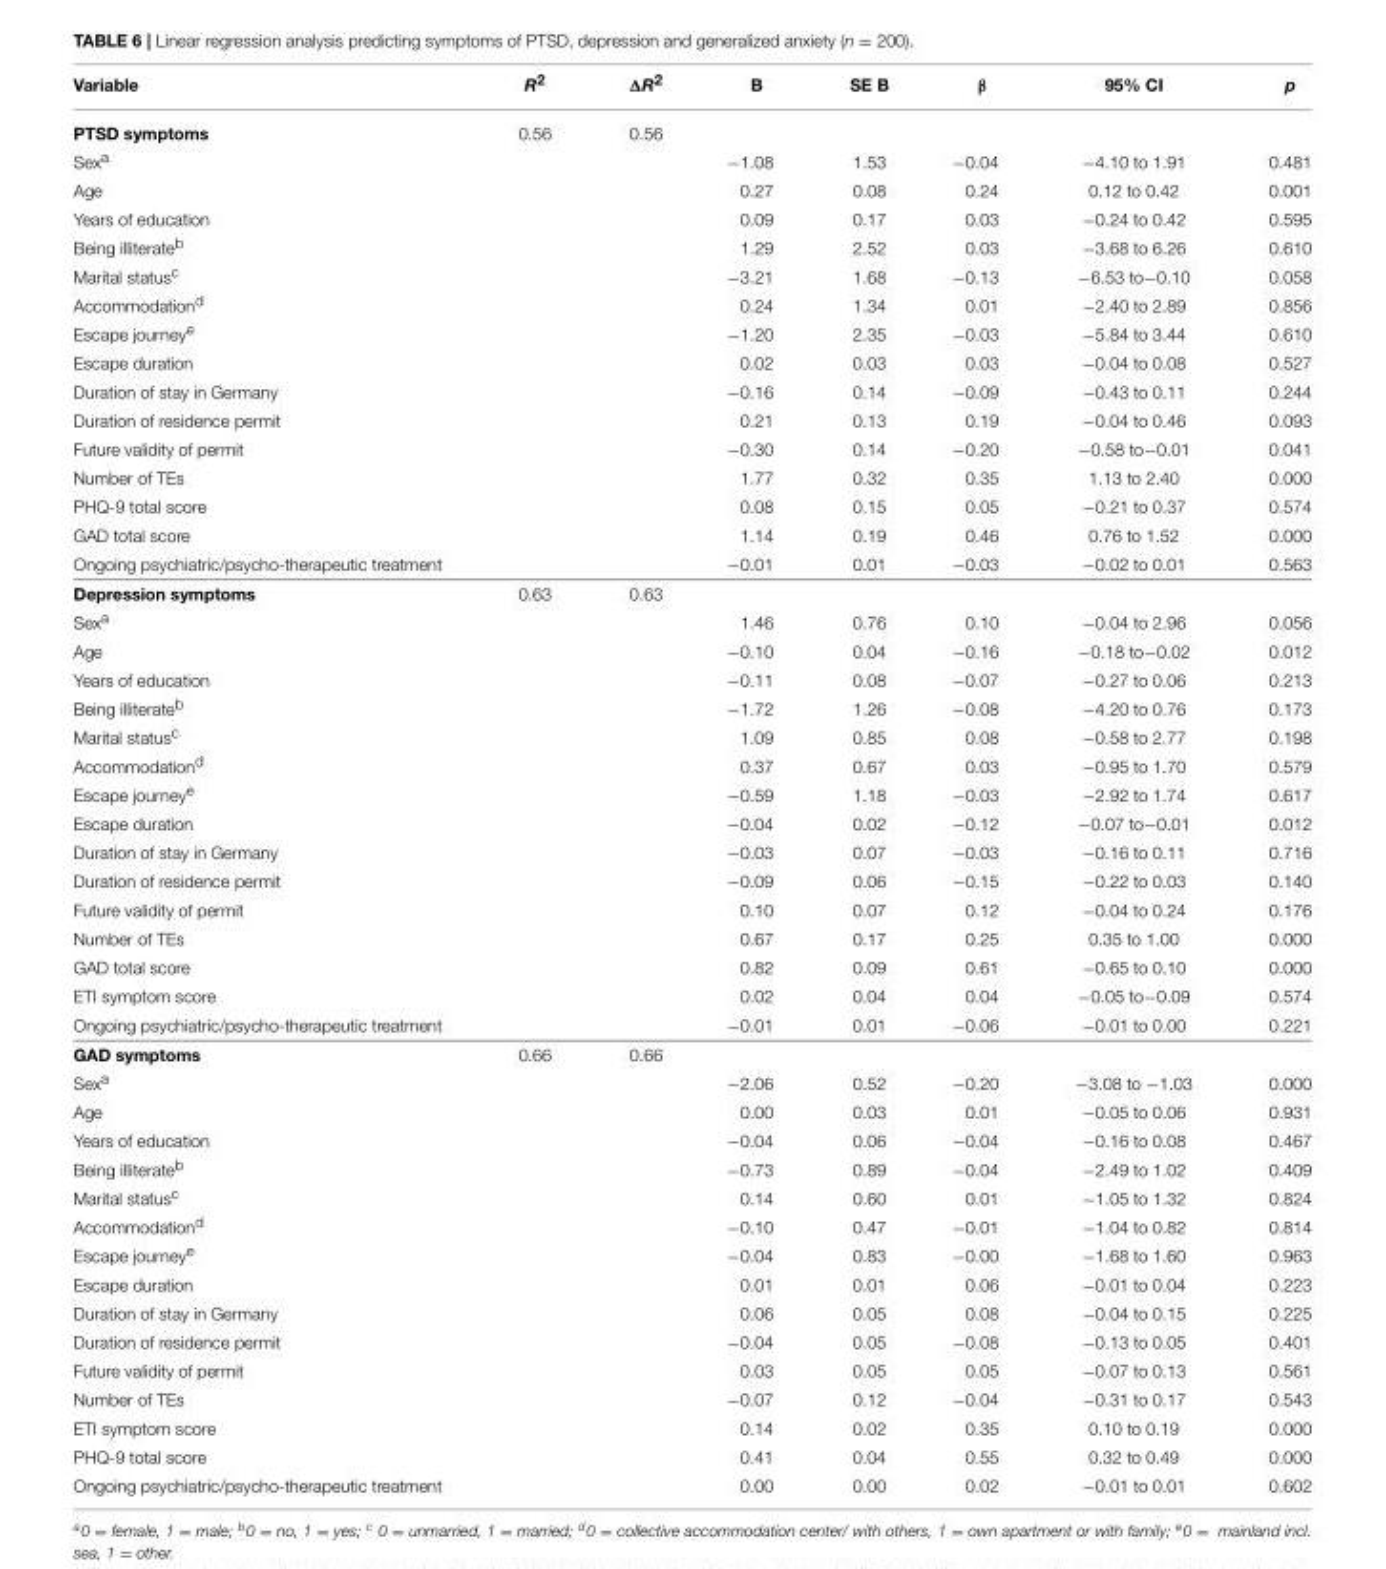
<table><thead><tr><td>Variable</td><td>R<sup>2</sup></td><td>ΔR<sup>2</sup></td><td>B</td><td>SE B</td><td>β</td><td>95% CI</td><td>p</td></tr></thead><tbody><tr><td>PTSD symptoms</td><td>0.56</td><td>0.56</td><td></td><td></td><td></td><td></td><td></td></tr><tr><td>Sex<sup>a</sup></td><td></td><td></td><td>−1.08</td><td>1.53</td><td>−0.04</td><td>−4.10 to 1.91</td><td>0.481</td></tr><tr><td>Age</td><td></td><td></td><td>0.27</td><td>0.08</td><td>0.24</td><td>0.12 to 0.42</td><td>0.001</td></tr><tr><td>Years of education</td><td></td><td></td><td>0.09</td><td>0.17</td><td>0.03</td><td>−0.24 to 0.42</td><td>0.595</td></tr><tr><td>Being illiterate<sup>b</sup></td><td></td><td></td><td>1.29</td><td>2.52</td><td>0.03</td><td>−3.68 to 6.26</td><td>0.610</td></tr><tr><td>Marital status<sup>c</sup></td><td></td><td></td><td>−3.21</td><td>1.68</td><td>−0.13</td><td>−6.53 to−0.10</td><td>0.058</td></tr><tr><td>Accommodation<sup>d</sup></td><td></td><td></td><td>0.24</td><td>1.34</td><td>0.01</td><td>−2.40 to 2.89</td><td>0.856</td></tr><tr><td>Escape journey<sup>e</sup></td><td></td><td></td><td>−1.20</td><td>2.35</td><td>−0.03</td><td>−5.84 to 3.44</td><td>0.610</td></tr><tr><td>Escape duration</td><td></td><td></td><td>0.02</td><td>0.03</td><td>0.03</td><td>−0.04 to 0.08</td><td>0.527</td></tr><tr><td>Duration of stay in Germany</td><td></td><td></td><td>−0.16</td><td>0.14</td><td>−0.09</td><td>−0.43 to 0.11</td><td>0.244</td></tr><tr><td>Duration of residence permit</td><td></td><td></td><td>0.21</td><td>0.13</td><td>0.19</td><td>−0.04 to 0.46</td><td>0.093</td></tr><tr><td>Future validity of permit</td><td></td><td></td><td>−0.30</td><td>0.14</td><td>−0.20</td><td>−0.58 to−0.01</td><td>0.041</td></tr><tr><td>Number of TEs</td><td></td><td></td><td>1.77</td><td>0.32</td><td>0.35</td><td>1.13 to 2.40</td><td>0.000</td></tr><tr><td>PHQ-9 total score</td><td></td><td></td><td>0.08</td><td>0.15</td><td>0.05</td><td>−0.21 to 0.37</td><td>0.574</td></tr><tr><td>GAD total score</td><td></td><td></td><td>1.14</td><td>0.19</td><td>0.46</td><td>0.76 to 1.52</td><td>0.000</td></tr><tr><td>Ongoing psychiatric/psycho-therapeutic treatment</td><td></td><td></td><td>−0.01</td><td>0.01</td><td>−0.03</td><td>−0.02 to 0.01</td><td>0.563</td></tr><tr><td>Depression symptoms</td><td>0.63</td><td>0.63</td><td></td><td></td><td></td><td></td><td></td></tr><tr><td>Sex<sup>a</sup></td><td></td><td></td><td>1.46</td><td>0.76</td><td>0.10</td><td>−0.04 to 2.96</td><td>0.056</td></tr><tr><td>Age</td><td></td><td></td><td>−0.10</td><td>0.04</td><td>−0.16</td><td>−0.18 to−0.02</td><td>0.012</td></tr><tr><td>Years of education</td><td></td><td></td><td>−0.11</td><td>0.08</td><td>−0.07</td><td>−0.27 to 0.06</td><td>0.213</td></tr><tr><td>Being illiterate<sup>b</sup></td><td></td><td></td><td>−1.72</td><td>1.26</td><td>−0.08</td><td>−4.20 to 0.76</td><td>0.173</td></tr><tr><td>Marital status<sup>c</sup></td><td></td><td></td><td>1.09</td><td>0.85</td><td>0.08</td><td>−0.58 to 2.77</td><td>0.198</td></tr><tr><td>Accommodation<sup>d</sup></td><td></td><td></td><td>0.37</td><td>0.67</td><td>0.03</td><td>−0.95 to 1.70</td><td>0.579</td></tr><tr><td>Escape journey<sup>e</sup></td><td></td><td></td><td>−0.59</td><td>1.18</td><td>−0.03</td><td>−2.92 to 1.74</td><td>0.617</td></tr><tr><td>Escape duration</td><td></td><td></td><td>−0.04</td><td>0.02</td><td>−0.12</td><td>−0.07 to−0.01</td><td>0.012</td></tr><tr><td>Duration of stay in Germany</td><td></td><td></td><td>−0.03</td><td>0.07</td><td>−0.03</td><td>−0.16 to 0.11</td><td>0.716</td></tr><tr><td>Duration of residence permit</td><td></td><td></td><td>−0.09</td><td>0.06</td><td>−0.15</td><td>−0.22 to 0.03</td><td>0.140</td></tr><tr><td>Future validity of permit</td><td></td><td></td><td>0.10</td><td>0.07</td><td>0.12</td><td>−0.04 to 0.24</td><td>0.176</td></tr><tr><td>Number of TEs</td><td></td><td></td><td>0.67</td><td>0.17</td><td>0.25</td><td>0.35 to 1.00</td><td>0.000</td></tr><tr><td>GAD total score</td><td></td><td></td><td>0.82</td><td>0.09</td><td>0.61</td><td>−0.65 to 0.10</td><td>0.000</td></tr><tr><td>ETI symptom score</td><td></td><td></td><td>0.02</td><td>0.04</td><td>0.04</td><td>−0.05 to−0.09</td><td>0.574</td></tr><tr><td>Ongoing psychiatric/psycho-therapeutic treatment</td><td></td><td></td><td>−0.01</td><td>0.01</td><td>−0.06</td><td>−0.01 to 0.00</td><td>0.221</td></tr><tr><td>GAD symptoms</td><td>0.66</td><td>0.66</td><td></td><td></td><td></td><td></td><td></td></tr><tr><td>Sex<sup>a</sup></td><td></td><td></td><td>−2.06</td><td>0.52</td><td>−0.20</td><td>−3.08 to −1.03</td><td>0.000</td></tr><tr><td>Age</td><td></td><td></td><td>0.00</td><td>0.03</td><td>0.01</td><td>−0.05 to 0.06</td><td>0.931</td></tr><tr><td>Years of education</td><td></td><td></td><td>−0.04</td><td>0.06</td><td>−0.04</td><td>−0.16 to 0.08</td><td>0.467</td></tr><tr><td>Being illiterate<sup>b</sup></td><td></td><td></td><td>−0.73</td><td>0.89</td><td>−0.04</td><td>−2.49 to 1.02</td><td>0.409</td></tr><tr><td>Marital status<sup>c</sup></td><td></td><td></td><td>0.14</td><td>0.60</td><td>0.01</td><td>−1.05 to 1.32</td><td>0.824</td></tr><tr><td>Accommodation<sup>d</sup></td><td></td><td></td><td>−0.10</td><td>0.47</td><td>−0.01</td><td>−1.04 to 0.82</td><td>0.814</td></tr><tr><td>Escape journey<sup>e</sup></td><td></td><td></td><td>−0.04</td><td>0.83</td><td>−0.00</td><td>−1.68 to 1.60</td><td>0.963</td></tr><tr><td>Escape duration</td><td></td><td></td><td>0.01</td><td>0.01</td><td>0.06</td><td>−0.01 to 0.04</td><td>0.223</td></tr><tr><td>Duration of stay in Germany</td><td></td><td></td><td>0.06</td><td>0.05</td><td>0.08</td><td>−0.04 to 0.15</td><td>0.225</td></tr><tr><td>Duration of residence permit</td><td></td><td></td><td>−0.04</td><td>0.05</td><td>−0.08</td><td>−0.13 to 0.05</td><td>0.401</td></tr><tr><td>Future validity of permit</td><td></td><td></td><td>0.03</td><td>0.05</td><td>0.05</td><td>−0.07 to 0.13</td><td>0.561</td></tr><tr><td>Number of TEs</td><td></td><td></td><td>−0.07</td><td>0.12</td><td>−0.04</td><td>−0.31 to 0.17</td><td>0.543</td></tr><tr><td>ETI symptom score</td><td></td><td></td><td>0.14</td><td>0.02</td><td>0.35</td><td>0.10 to 0.19</td><td>0.000</td></tr><tr><td>PHQ-9 total score</td><td></td><td></td><td>0.41</td><td>0.04</td><td>0.55</td><td>0.32 to 0.49</td><td>0.000</td></tr><tr><td>Ongoing psychiatric/psycho-therapeutic treatment</td><td></td><td></td><td>0.00</td><td>0.00</td><td>0.02</td><td>−0.01 to 0.01</td><td>0.602</td></tr></tbody></table>